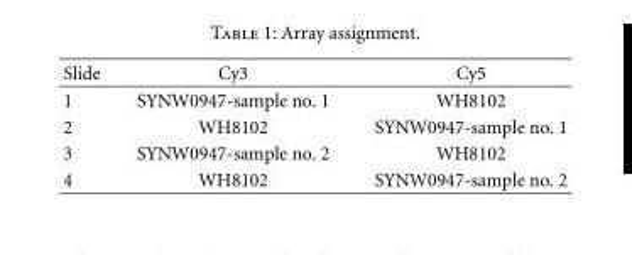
<table><thead><tr><td>Slide</td><td>Cy3</td><td>Cy5</td></tr></thead><tbody><tr><td>1</td><td>SYNW0947-sample no. 1</td><td>WH8102</td></tr><tr><td>2</td><td>WH8102</td><td>SYNW0947-sample no. 1</td></tr><tr><td>3</td><td>SYNW0947-sample no. 2</td><td>WH8102</td></tr><tr><td>4</td><td>WH8102</td><td>SYNW0947-sample no. 2</td></tr></tbody></table>